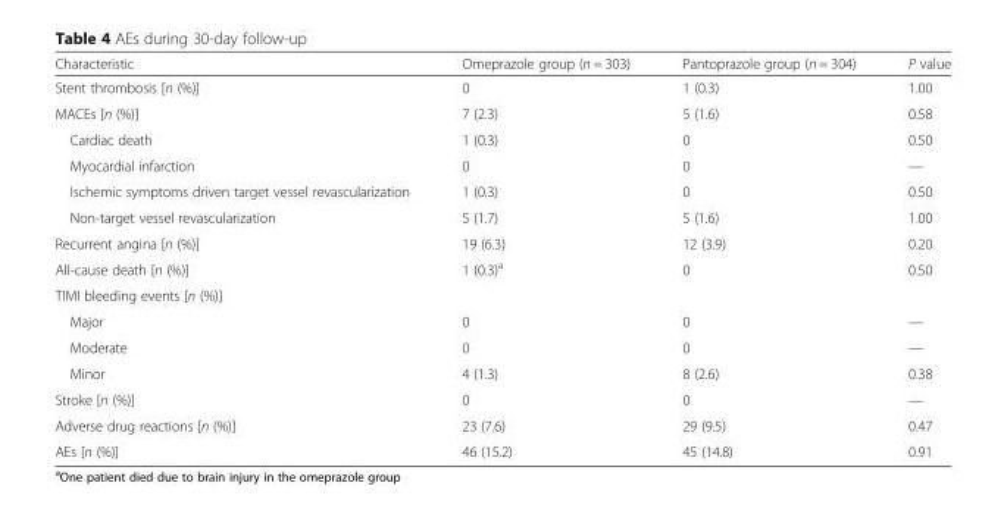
<table><thead><tr><td>Characteristic</td><td>Omeprazole group (n = 303)</td><td>Pantoprazole group (n = 304)</td><td>P value</td></tr></thead><tbody><tr><td>Stent thrombosis [n (%)]</td><td>0</td><td>1 (0.3)</td><td>1.00</td></tr><tr><td>MACEs [n (%)]</td><td>7 (2.3)</td><td>5 (1.6)</td><td>0.58</td></tr><tr><td>Cardiac death</td><td>1 (0.3)</td><td>0</td><td>0.50</td></tr><tr><td>Myocardial infarction</td><td>0</td><td>0</td><td>—</td></tr><tr><td>Ischemic symptoms driven target vessel revascularization</td><td>1 (0.3)</td><td>0</td><td>0.50</td></tr><tr><td>Non-target vessel revascularization</td><td>5 (1.7)</td><td>5 (1.6)</td><td>1.00</td></tr><tr><td>Recurrent angina [n (%)]</td><td>19 (6.3)</td><td>12 (3.9)</td><td>0.20</td></tr><tr><td>All-cause death [n (%)]</td><td>1 (0.3)<sup>a</sup></td><td>0</td><td>0.50</td></tr><tr><td colspan="4">TIMI bleeding events [n (%)]</td></tr><tr><td>Major</td><td>0</td><td>0</td><td>—</td></tr><tr><td>Moderate</td><td>0</td><td>0</td><td>—</td></tr><tr><td>Minor</td><td>4 (1.3)</td><td>8 (2.6)</td><td>0.38</td></tr><tr><td>Stroke [n (%)]</td><td>0</td><td>0</td><td>—</td></tr><tr><td>Adverse drug reactions [n (%)]</td><td>23 (7.6)</td><td>29 (9.5)</td><td>0.47</td></tr><tr><td>AEs [n (%)]</td><td>46 (15.2)</td><td>45 (14.8)</td><td>0.91</td></tr></tbody></table>